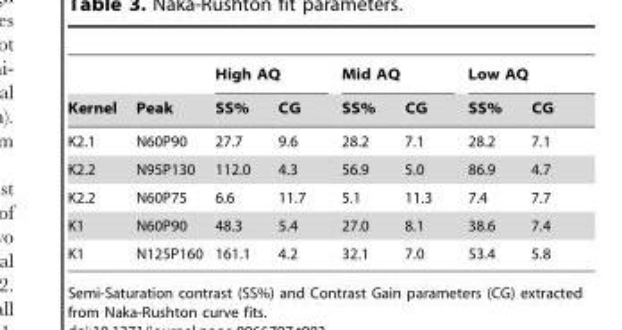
<table><thead><tr><td rowspan="2">Kernel</td><td rowspan="2">Peak</td><td colspan="2">High AQ</td><td colspan="2">Mid AQ</td><td colspan="2">Low AQ</td></tr><tr><td>SS%</td><td>CG</td><td>SS%</td><td>CG</td><td>SS%</td><td>CG</td></tr></thead><tbody><tr><td>K2.1</td><td>N60P90</td><td>27.7</td><td>9.6</td><td>28.2</td><td>7.1</td><td>28.2</td><td>7.1</td></tr><tr><td>K2.2</td><td>N95P130</td><td>112.0</td><td>4.3</td><td>56.9</td><td>5.0</td><td>86.9</td><td>4.7</td></tr><tr><td>K2.2</td><td>N60P75</td><td>6.6</td><td>11.7</td><td>5.1</td><td>11.3</td><td>7.4</td><td>7.7</td></tr><tr><td>K1</td><td>N60P90</td><td>48.3</td><td>5.4</td><td>27.0</td><td>8.1</td><td>38.6</td><td>7.4</td></tr><tr><td>K1</td><td>N125P160</td><td>161.1</td><td>4.2</td><td>32.1</td><td>7.0</td><td>53.4</td><td>5.8</td></tr></tbody></table>